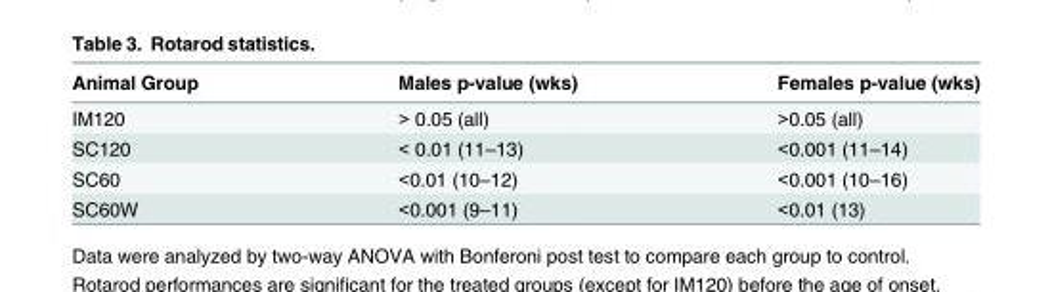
<table><thead><tr><td>Animal Group</td><td>Males p-value (wks)</td><td>Females p-value (wks)</td></tr></thead><tbody><tr><td>IM120</td><td>&gt; 0.05 (all)</td><td>&gt;0.05 (all)</td></tr><tr><td>SC120</td><td>&lt; 0.01 (11–13)</td><td>&lt;0.001 (11–14)</td></tr><tr><td>SC60</td><td>&lt;0.01 (10–12)</td><td>&lt;0.001 (10–16)</td></tr><tr><td>SC60W</td><td>&lt;0.001 (9–11)</td><td>&lt;0.01 (13)</td></tr></tbody></table>